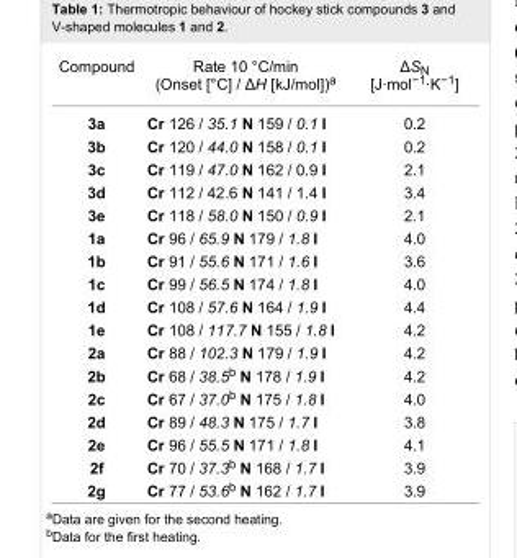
<table><tbody><tr><td>Compound</td><td>Rate 10 °C/min (Onset [°C] / ΔH [kJ/mol])<sup>a</sup></td><td>ΔS<sub>N</sub> [J·mol<sup>−1</sup>·K<sup>−1</sup>]</td></tr><tr><td>3a</td><td>Cr 126 / 35.1 N 159 / 0.1 I</td><td>0.2</td></tr><tr><td>3b</td><td>Cr 120 / 44.0 N 158 / 0.1 I</td><td>0.2</td></tr><tr><td>3c</td><td>Cr 119 / 47.0 N 162 / 0.9 I</td><td>2.1</td></tr><tr><td>3d</td><td>Cr 112 / 42.6 N 141 / 1.4 I</td><td>3.4</td></tr><tr><td>3e</td><td>Cr 118 / 58.0 N 150 / 0.9 I</td><td>2.1</td></tr><tr><td>1a</td><td>Cr 96 / 65.9 N 179 / 1.8 I</td><td>4.0</td></tr><tr><td>1b</td><td>Cr 91 / 55.6 N 171 / 1.6 I</td><td>3.6</td></tr><tr><td>1c</td><td>Cr 99 / 56.5 N 174 / 1.8 I</td><td>4.0</td></tr><tr><td>1d</td><td>Cr 108 / 57.6 N 164 / 1.9 I</td><td>4.4</td></tr><tr><td>1e</td><td>Cr 108 / 117.7 N 155 / 1.8 I</td><td>4.2</td></tr><tr><td>2a</td><td>Cr 88 / 102.3 N 179 / 1.9 I</td><td>4.2</td></tr><tr><td>2b</td><td>Cr 68 / 38.5<sup>b</sup> N 178 / 1.9 I</td><td>4.2</td></tr><tr><td>2c</td><td>Cr 67 / 37.0<sup>b</sup> N 175 / 1.8 I</td><td>4.0</td></tr><tr><td>2d</td><td>Cr 89 / 48.3 N 175 / 1.7 I</td><td>3.8</td></tr><tr><td>2e</td><td>Cr 96 / 55.5 N 171 / 1.8 I</td><td>4.1</td></tr><tr><td>2f</td><td>Cr 70 / 37.3<sup>b</sup> N 168 / 1.7 I</td><td>3.9</td></tr><tr><td>2g</td><td>Cr 77 / 53.6<sup>b</sup> N 162 / 1.7 I</td><td>3.9</td></tr></tbody></table>